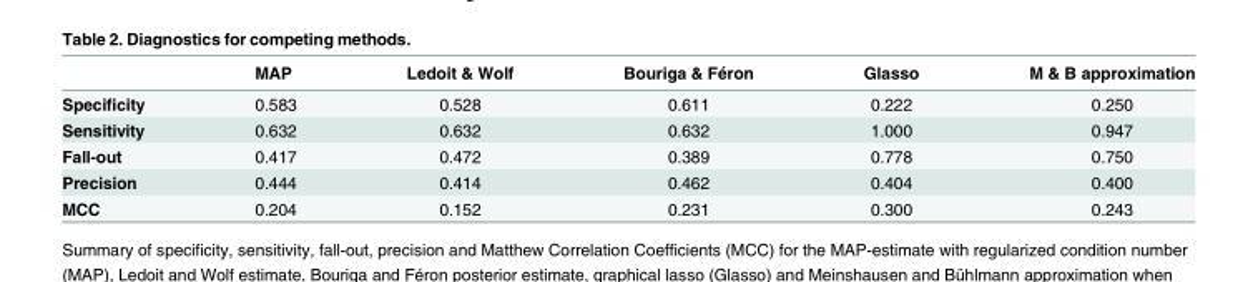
<table><thead><tr><td></td><td>MAP</td><td>Ledoit &amp; Wolf</td><td>Bouriga &amp; Féron</td><td>Glasso</td><td>M &amp; B approximation</td></tr></thead><tbody><tr><td>Specificity</td><td>0.583</td><td>0.528</td><td>0.611</td><td>0.222</td><td>0.250</td></tr><tr><td>Sensitivity</td><td>0.632</td><td>0.632</td><td>0.632</td><td>1.000</td><td>0.947</td></tr><tr><td>Fall-out</td><td>0.417</td><td>0.472</td><td>0.389</td><td>0.778</td><td>0.750</td></tr><tr><td>Precision</td><td>0.444</td><td>0.414</td><td>0.462</td><td>0.404</td><td>0.400</td></tr><tr><td>MCC</td><td>0.204</td><td>0.152</td><td>0.231</td><td>0.300</td><td>0.243</td></tr></tbody></table>